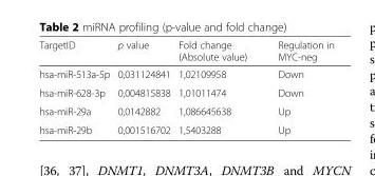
<table><thead><tr><td>TargetID</td><td>p value</td><td>Fold change (Absolute value)</td><td>Regulation in MYC-neg</td></tr></thead><tbody><tr><td>hsa-miR-513a-5p</td><td>0,031124841</td><td>1,02109958</td><td>Down</td></tr><tr><td>hsa-miR-628-3p</td><td>0,004815838</td><td>1,01011474</td><td>Down</td></tr><tr><td>hsa-miR-29a</td><td>0,0142882</td><td>1,086645638</td><td>Up</td></tr><tr><td>hsa-miR-29b</td><td>0,001516702</td><td>1,5403288</td><td>Up</td></tr></tbody></table>